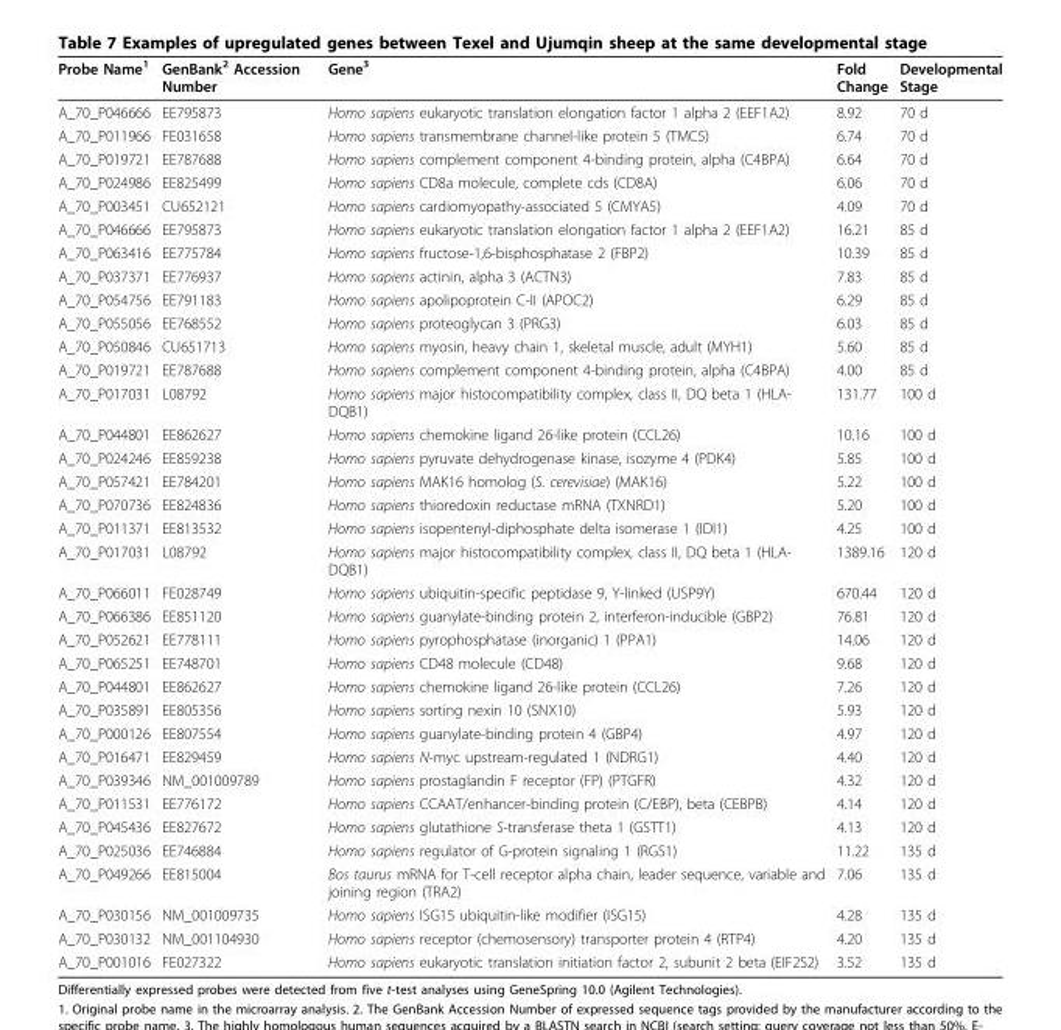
<table><thead><tr><td>Probe Name<sup>1</sup></td><td>GenBank<sup>2</sup> Accession Number</td><td>Gene<sup>3</sup></td><td>Fold Change</td><td>Developmental Stage</td></tr></thead><tbody><tr><td>A_70_P046666</td><td>EE795873</td><td>Homo sapiens eukaryotic translation elongation factor 1 alpha 2 (EEF1A2)</td><td>8.92</td><td>70 d</td></tr><tr><td>A_70_P011966</td><td>FE031658</td><td>Homo sapiens transmembrane channel-like protein 5 (TMC5)</td><td>6.74</td><td>70 d</td></tr><tr><td>A_70_P019721</td><td>EE787688</td><td>Homo sapiens complement component 4-binding protein, alpha (C4BPA)</td><td>6.64</td><td>70 d</td></tr><tr><td>A_70_P024986</td><td>EE825499</td><td>Homo sapiens CD8a molecule, complete cds (CD8A)</td><td>6.06</td><td>70 d</td></tr><tr><td>A_70_P003451</td><td>CU652121</td><td>Homo sapiens cardiomyopathy-associated 5 (CMYA5)</td><td>4.09</td><td>70 d</td></tr><tr><td>A_70_P046666</td><td>EE795873</td><td>Homo sapiens eukaryotic translation elongation factor 1 alpha 2 (EEF1A2)</td><td>16.21</td><td>85 d</td></tr><tr><td>A_70_P063416</td><td>EE775784</td><td>Homo sapiens fructose-1,6-bisphosphatase 2 (FBP2)</td><td>10.39</td><td>85 d</td></tr><tr><td>A_70_P037371</td><td>EE776937</td><td>Homo sapiens actinin, alpha 3 (ACTN3)</td><td>7.83</td><td>85 d</td></tr><tr><td>A_70_P054756</td><td>EE791183</td><td>Homo sapiens apolipoprotein C-II (APOC2)</td><td>6.29</td><td>85 d</td></tr><tr><td>A_70_P055056</td><td>EE768552</td><td>Homo sapiens proteoglycan 3 (PRG3)</td><td>6.03</td><td>85 d</td></tr><tr><td>A_70_P050846</td><td>CU651713</td><td>Homo sapiens myosin, heavy chain 1, skeletal muscle, adult (MYH1)</td><td>5.60</td><td>85 d</td></tr><tr><td>A_70_P019721</td><td>EE787688</td><td>Homo sapiens complement component 4-binding protein, alpha (C4BPA)</td><td>4.00</td><td>85 d</td></tr><tr><td>A_70_P017031</td><td>L08792</td><td>Homo sapiens major histocompatibility complex, class II, DQ beta 1 (HLA- DQB1)</td><td>131.77</td><td>100 d</td></tr><tr><td>A_70_P044801</td><td>EE862627</td><td>Homo sapiens chemokine ligand 26-like protein (CCL26)</td><td>10.16</td><td>100 d</td></tr><tr><td>A_70_P024246</td><td>EE859238</td><td>Homo sapiens pyruvate dehydrogenase kinase, isozyme 4 (PDK4)</td><td>5.85</td><td>100 d</td></tr><tr><td>A_70_P057421</td><td>EE784201</td><td>Homo sapiens MAK16 homolog (S. cerevisiae) (MAK16)</td><td>5.22</td><td>100 d</td></tr><tr><td>A_70_P070736</td><td>EE824836</td><td>Homo sapiens thioredoxin reductase mRNA (TXNRD1)</td><td>5.20</td><td>100 d</td></tr><tr><td>A_70_P011371</td><td>EE813532</td><td>Homo sapiens isopentenyl-diphosphate delta isomerase 1 (IDI1)</td><td>4.25</td><td>100 d</td></tr><tr><td>A_70_P017031</td><td>L08792</td><td>Homo sapiens major histocompatibility complex, class II, DQ beta 1 (HLA- DQB1)</td><td>1389.16</td><td>120 d</td></tr><tr><td>A_70_P066011</td><td>FE028749</td><td>Homo sapiens ubiquitin-specific peptidase 9, Y-linked (USP9Y)</td><td>670.44</td><td>120 d</td></tr><tr><td>A_70_P066386</td><td>EE851120</td><td>Homo sapiens guanylate-binding protein 2, interferon-inducible (GBP2)</td><td>76.81</td><td>120 d</td></tr><tr><td>A_70_P052621</td><td>EE778111</td><td>Homo sapiens pyrophosphatase (inorganic) 1 (PPA1)</td><td>14.06</td><td>120 d</td></tr><tr><td>A_70_P065251</td><td>EE748701</td><td>Homo sapiens CD48 molecule (CD48)</td><td>9.68</td><td>120 d</td></tr><tr><td>A_70_P044801</td><td>EE862627</td><td>Homo sapiens chemokine ligand 26-like protein (CCL26)</td><td>7.26</td><td>120 d</td></tr><tr><td>A_70_P035891</td><td>EE805356</td><td>Homo sapiens sorting nexin 10 (SNX10)</td><td>5.93</td><td>120 d</td></tr><tr><td>A_70_P000126</td><td>EE807554</td><td>Homo sapiens guanylate-binding protein 4 (GBP4)</td><td>4.97</td><td>120 d</td></tr><tr><td>A_70_P016471</td><td>EE829459</td><td>Homo sapiens N-myc upstream-regulated 1 (NDRG1)</td><td>4.40</td><td>120 d</td></tr><tr><td>A_70_P039346</td><td>NM_001009789</td><td>Homo sapiens prostaglandin F receptor (FP) (PTGFR)</td><td>4.32</td><td>120 d</td></tr><tr><td>A_70_P011531</td><td>EE776172</td><td>Homo sapiens CCAAT/enhancer-binding protein (C/EBP), beta (CEBPB)</td><td>4.14</td><td>120 d</td></tr><tr><td>A_70_P045436</td><td>EE827672</td><td>Homo sapiens glutathione S-transferase theta 1 (GSTT1)</td><td>4.13</td><td>120 d</td></tr><tr><td>A_70_P025036</td><td>EE746884</td><td>Homo sapiens regulator of G-protein signaling 1 (RGS1)</td><td>11.22</td><td>135 d</td></tr><tr><td>A_70_P049266</td><td>EE815004</td><td>Bos taurus mRNA for T-cell receptor alpha chain, leader sequence, variable and joining region (TRA2)</td><td>7.06</td><td>135 d</td></tr><tr><td>A_70_P030156</td><td>NM_001009735</td><td>Homo sapiens ISG15 ubiquitin-like modifier (ISG15)</td><td>4.28</td><td>135 d</td></tr><tr><td>A_70_P030132</td><td>NM_001104930</td><td>Homo sapiens receptor (chemosensory) transporter protein 4 (RTP4)</td><td>4.20</td><td>135 d</td></tr><tr><td>A_70_P001016</td><td>FE027322</td><td>Homo sapiens eukaryotic translation initiation factor 2, subunit 2 beta (EIF2S2)</td><td>3.52</td><td>135 d</td></tr></tbody></table>